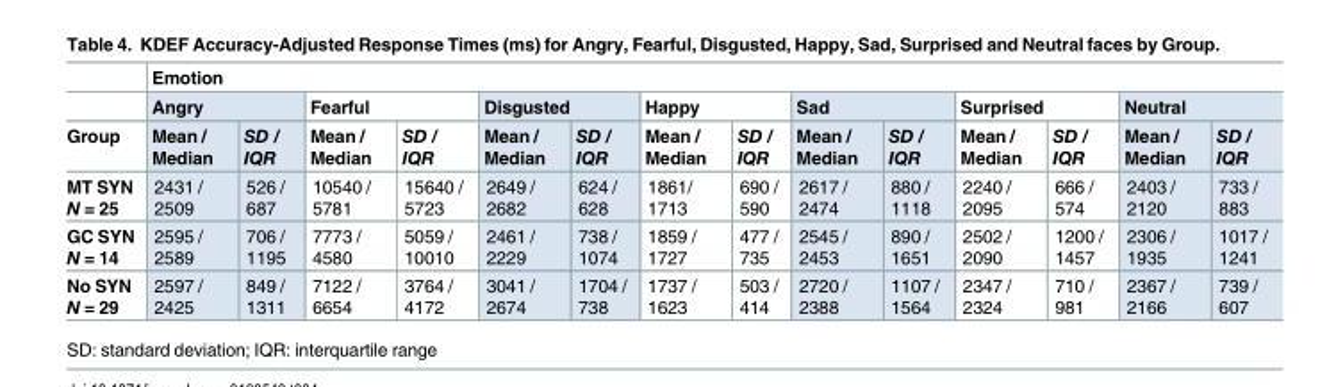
<table><thead><tr><td rowspan="3">Group</td><td colspan="14">Emotion</td></tr><tr><td colspan="2">Angry</td><td colspan="2">Fearful</td><td colspan="2">Disgusted</td><td colspan="2">Happy</td><td colspan="2">Sad</td><td colspan="2">Surprised</td><td colspan="2">Neutral</td></tr><tr><td>Mean / Median</td><td>SD / IQR</td><td>Mean / Median</td><td>SD / IQR</td><td>Mean / Median</td><td>SD / IQR</td><td>Mean / Median</td><td>SD / IQR</td><td>Mean / Median</td><td>SD / IQR</td><td>Mean / Median</td><td>SD / IQR</td><td>Mean / Median</td><td>SD / IQR</td></tr></thead><tbody><tr><td>MT SYN N = 25</td><td>2431 / 2509</td><td>526 / 687</td><td>10540 / 5781</td><td>15640 / 5723</td><td>2649 / 2682</td><td>624 / 628</td><td>1861/ 1713</td><td>690 / 590</td><td>2617 / 2474</td><td>880 / 1118</td><td>2240 / 2095</td><td>666 / 574</td><td>2403 / 2120</td><td>733 / 883</td></tr><tr><td>GC SYN N = 14</td><td>2595 / 2589</td><td>706 / 1195</td><td>7773 / 4580</td><td>5059 / 10010</td><td>2461 / 2229</td><td>738 / 1074</td><td>1859 / 1727</td><td>477 / 735</td><td>2545 / 2453</td><td>890 / 1651</td><td>2502 / 2090</td><td>1200 / 1457</td><td>2306 / 1935</td><td>1017 / 1241</td></tr><tr><td>No SYN N = 29</td><td>2597 / 2425</td><td>849 / 1311</td><td>7122 / 6654</td><td>3764 / 4172</td><td>3041 / 2674</td><td>1704 / 738</td><td>1737 / 1623</td><td>503 / 414</td><td>2720 / 2388</td><td>1107 / 1564</td><td>2347 / 2324</td><td>710 / 981</td><td>2367 / 2166</td><td>739 / 607</td></tr></tbody></table>